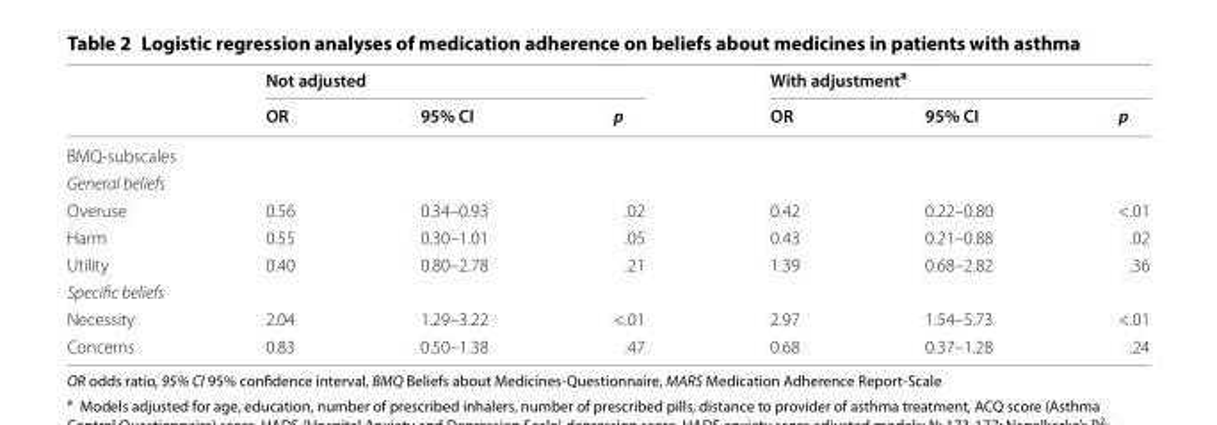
<table><thead><tr><td rowspan="2"></td><td colspan="3">Not adjusted</td><td colspan="3">With adjustment<sup>a</sup></td></tr><tr><td>OR</td><td>95% CI</td><td>p</td><td>OR</td><td>95% CI</td><td>p</td></tr></thead><tbody><tr><td colspan="7">BMQ-subscales</td></tr><tr><td colspan="7">General beliefs</td></tr><tr><td>Overuse</td><td>0.56</td><td>0.34–0.93</td><td>.02</td><td>0.42</td><td>0.22–0.80</td><td>&lt;.01</td></tr><tr><td>Harm</td><td>0.55</td><td>0.30–1.01</td><td>.05</td><td>0.43</td><td>0.21–0.88</td><td>.02</td></tr><tr><td>Utility</td><td>0.40</td><td>0.80–2.78</td><td>.21</td><td>1.39</td><td>0.68–2.82</td><td>.36</td></tr><tr><td colspan="7">Specific beliefs</td></tr><tr><td>Necessity</td><td>2.04</td><td>1.29–3.22</td><td>&lt;.01</td><td>2.97</td><td>1.54–5.73</td><td>&lt;.01</td></tr><tr><td>Concerns</td><td>0.83</td><td>0.50–1.38</td><td>.47</td><td>0.68</td><td>0.37–1.28</td><td>.24</td></tr></tbody></table>